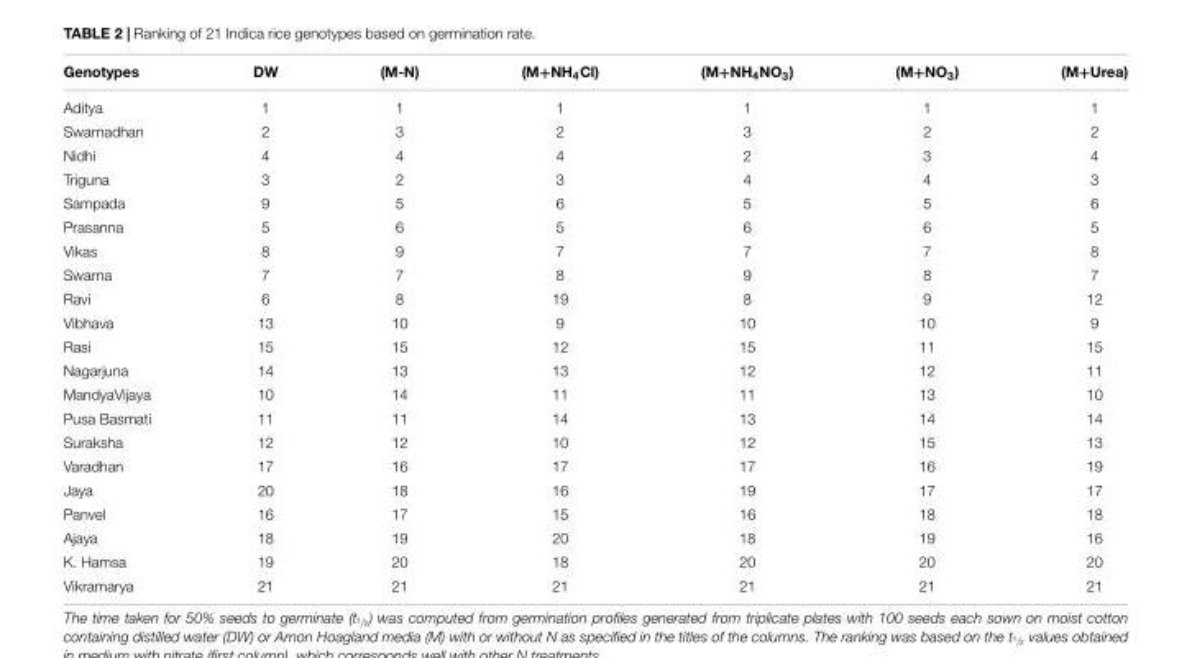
<table><thead><tr><td>Genotypes</td><td>DW</td><td>(M-N)</td><td>(M+NH<sub>4</sub>Cl)</td><td>(M+NH<sub>4</sub>NO<sub>3</sub>)</td><td>(M+NO<sub>3</sub>)</td><td>(M+Urea)</td></tr></thead><tbody><tr><td>Aditya</td><td>1</td><td>1</td><td>1</td><td>1</td><td>1</td><td>1</td></tr><tr><td>Swarnadhan</td><td>2</td><td>3</td><td>2</td><td>3</td><td>2</td><td>2</td></tr><tr><td>Nidhi</td><td>4</td><td>4</td><td>4</td><td>2</td><td>3</td><td>4</td></tr><tr><td>Triguna</td><td>3</td><td>2</td><td>3</td><td>4</td><td>4</td><td>3</td></tr><tr><td>Sampada</td><td>9</td><td>5</td><td>6</td><td>5</td><td>5</td><td>6</td></tr><tr><td>Prasanna</td><td>5</td><td>6</td><td>5</td><td>6</td><td>6</td><td>5</td></tr><tr><td>Vikas</td><td>8</td><td>9</td><td>7</td><td>7</td><td>7</td><td>8</td></tr><tr><td>Swarna</td><td>7</td><td>7</td><td>8</td><td>9</td><td>8</td><td>7</td></tr><tr><td>Ravi</td><td>6</td><td>8</td><td>19</td><td>8</td><td>9</td><td>12</td></tr><tr><td>Vibhava</td><td>13</td><td>10</td><td>9</td><td>10</td><td>10</td><td>9</td></tr><tr><td>Rasi</td><td>15</td><td>15</td><td>12</td><td>15</td><td>11</td><td>15</td></tr><tr><td>Nagarjuna</td><td>14</td><td>13</td><td>13</td><td>12</td><td>12</td><td>11</td></tr><tr><td>MandyaVijaya</td><td>10</td><td>14</td><td>11</td><td>11</td><td>13</td><td>10</td></tr><tr><td>Pusa Basmati</td><td>11</td><td>11</td><td>14</td><td>13</td><td>14</td><td>14</td></tr><tr><td>Suraksha</td><td>12</td><td>12</td><td>10</td><td>12</td><td>15</td><td>13</td></tr><tr><td>Varadhan</td><td>17</td><td>16</td><td>17</td><td>17</td><td>16</td><td>19</td></tr><tr><td>Jaya</td><td>20</td><td>18</td><td>16</td><td>19</td><td>17</td><td>17</td></tr><tr><td>Panvel</td><td>16</td><td>17</td><td>15</td><td>16</td><td>18</td><td>18</td></tr><tr><td>Ajaya</td><td>18</td><td>19</td><td>20</td><td>18</td><td>19</td><td>16</td></tr><tr><td>K. Hamsa</td><td>19</td><td>20</td><td>18</td><td>20</td><td>20</td><td>20</td></tr><tr><td>Vikramarya</td><td>21</td><td>21</td><td>21</td><td>21</td><td>21</td><td>21</td></tr></tbody></table>